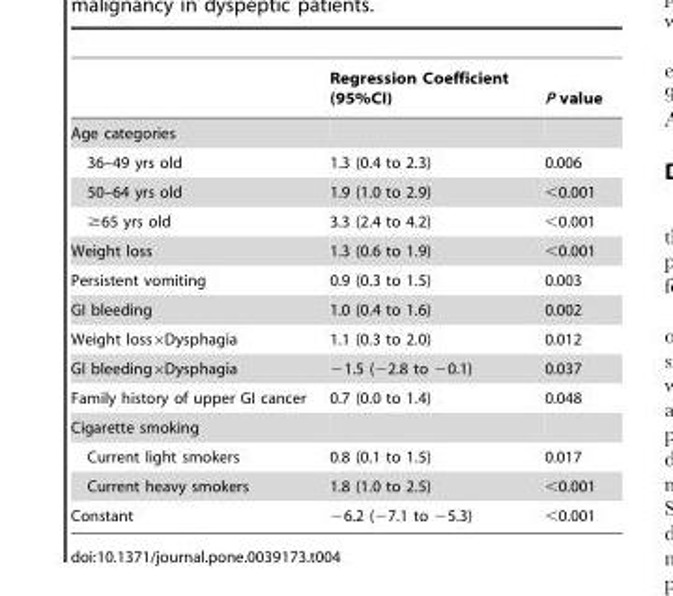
<table><thead><tr><td></td><td>Regression Coefficient (95%CI)</td><td>P value</td></tr></thead><tbody><tr><td colspan="3">Age categories</td></tr><tr><td>36–49 yrs old</td><td>1.3 (0.4 to 2.3)</td><td>0.006</td></tr><tr><td>50–64 yrs old</td><td>1.9 (1.0 to 2.9)</td><td>&lt;0.001</td></tr><tr><td>≥65 yrs old</td><td>3.3 (2.4 to 4.2)</td><td>&lt;0.001</td></tr><tr><td>Weight loss</td><td>1.3 (0.6 to 1.9)</td><td>&lt;0.001</td></tr><tr><td>Persistent vomiting</td><td>0.9 (0.3 to 1.5)</td><td>0.003</td></tr><tr><td>GI bleeding</td><td>1.0 (0.4 to 1.6)</td><td>0.002</td></tr><tr><td>Weight loss×Dysphagia</td><td>1.1 (0.3 to 2.0)</td><td>0.012</td></tr><tr><td>GI bleeding×Dysphagia</td><td>−1.5 (−2.8 to −0.1)</td><td>0.037</td></tr><tr><td>Family history of upper GI cancer</td><td>0.7 (0.0 to 1.4)</td><td>0.048</td></tr><tr><td colspan="3">Cigarette smoking</td></tr><tr><td>Current light smokers</td><td>0.8 (0.1 to 1.5)</td><td>0.017</td></tr><tr><td>Current heavy smokers</td><td>1.8 (1.0 to 2.5)</td><td>&lt;0.001</td></tr><tr><td>Constant</td><td>−6.2 (−7.1 to −5.3)</td><td>&lt;0.001</td></tr></tbody></table>